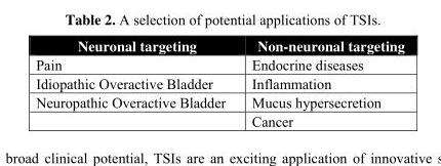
<table><thead><tr><td>Neuronal targeting</td><td>Non-neuronal targeting</td></tr></thead><tbody><tr><td>Pain</td><td>Endocrine diseases</td></tr><tr><td>Idiopathic Overactive Bladder</td><td>Inflammation</td></tr><tr><td rowspan="2">Neuropathic Overactive Bladder</td><td>Mucus hypersecretion</td></tr><tr><td>Cancer</td></tr></tbody></table>